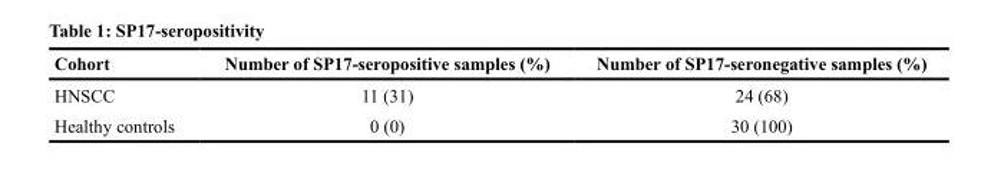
<table><thead><tr><td>Cohort</td><td>Number of SP17-seropositive samples (%)</td><td>Number of SP17-seronegative samples (%)</td></tr></thead><tbody><tr><td>HNSCC</td><td>11 (31)</td><td>24 (68)</td></tr><tr><td>Healthy controls</td><td>0 (0)</td><td>30 (100)</td></tr></tbody></table>